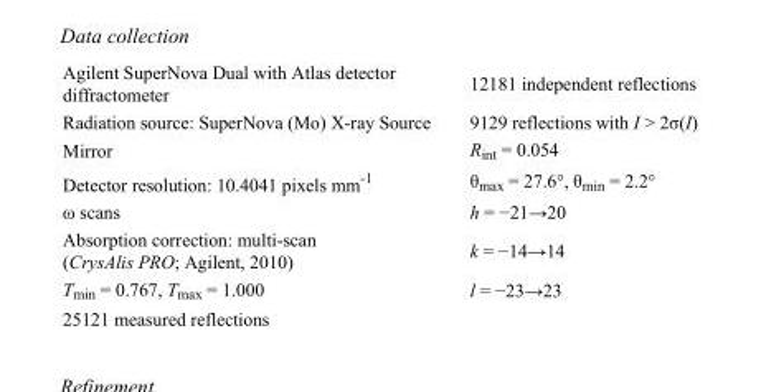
<table><tbody><tr><td>Agilent SuperNova Dual with Atlas detector diffractometer</td><td>12181 independent reflections</td></tr><tr><td>Radiation source: SuperNova (Mo) X-ray Source</td><td>9129 reflections with I &gt; 2σ(I)</td></tr><tr><td>Mirror</td><td>R<sub>int</sub> = 0.054</td></tr><tr><td>Detector resolution: 10.4041 pixels mm<sup>-1</sup></td><td>θ<sub>max</sub> = 27.6°, θ<sub>min</sub> = 2.2°</td></tr><tr><td>ω scans</td><td>h = −21→20</td></tr><tr><td>Absorption correction: multi-scan (CrysAlis PRO; Agilent, 2010)</td><td>k = −14→14</td></tr><tr><td>T<sub>min</sub> = 0.767, T<sub>max</sub> = 1.000</td><td>l = −23→23</td></tr><tr><td>25121 measured reflections</td><td></td></tr></tbody></table>